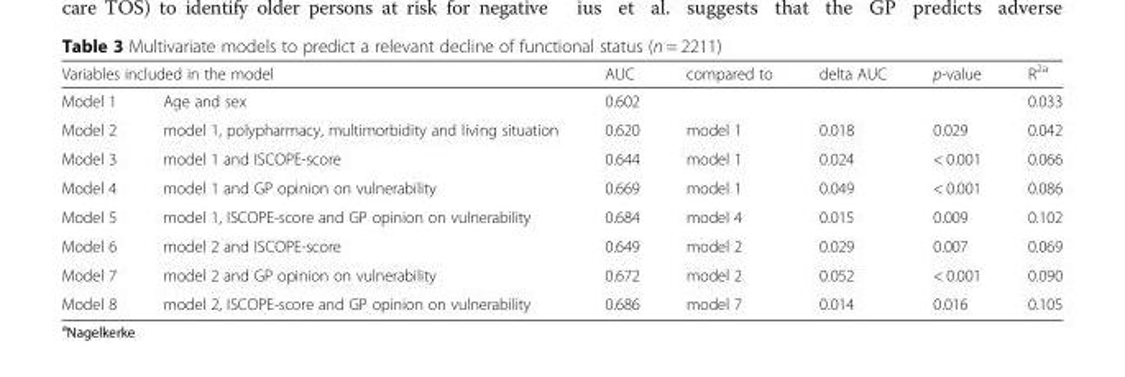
<table><thead><tr><td colspan="2">Variables included in the model</td><td rowspan="2">AUC 0.602</td><td rowspan="2">compared to</td><td rowspan="2">delta AUC</td><td rowspan="2">p-value</td><td rowspan="2">R<sup>2a</sup> 0.033</td></tr><tr><td>Model 1</td><td>Age and sex</td></tr></thead><tbody><tr><td>Model 2</td><td>model 1, polypharmacy, multimorbidity and living situation</td><td>0.620</td><td>model 1</td><td>0.018</td><td>0.029</td><td>0.042</td></tr><tr><td>Model 3</td><td>model 1 and ISCOPE-score</td><td>0.644</td><td>model 1</td><td>0.024</td><td>&lt; 0.001</td><td>0.066</td></tr><tr><td>Model 4</td><td>model 1 and GP opinion on vulnerability</td><td>0.669</td><td>model 1</td><td>0.049</td><td>&lt; 0.001</td><td>0.086</td></tr><tr><td>Model 5</td><td>model 1, ISCOPE-score and GP opinion on vulnerability</td><td>0.684</td><td>model 4</td><td>0.015</td><td>0.009</td><td>0.102</td></tr><tr><td>Model 6</td><td>model 2 and ISCOPE-score</td><td>0.649</td><td>model 2</td><td>0.029</td><td>0.007</td><td>0.069</td></tr><tr><td>Model 7</td><td>model 2 and GP opinion on vulnerability</td><td>0.672</td><td>model 2</td><td>0.052</td><td>&lt; 0.001</td><td>0.090</td></tr><tr><td>Model 8</td><td>model 2, ISCOPE-score and GP opinion on vulnerability</td><td>0.686</td><td>model 7</td><td>0.014</td><td>0.016</td><td>0.105</td></tr></tbody></table>